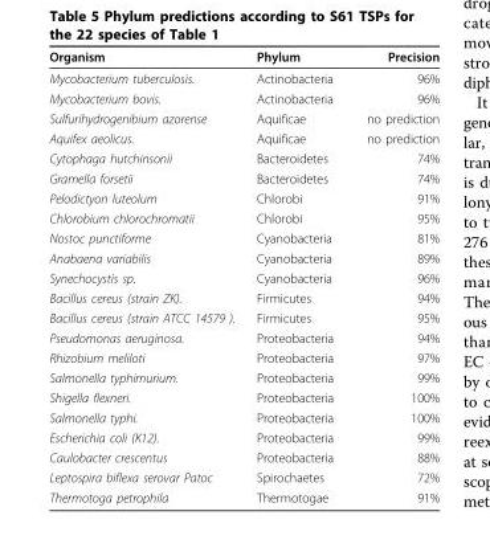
<table><thead><tr><td>Organism</td><td>Phylum</td><td>Precision</td></tr></thead><tbody><tr><td>Mycobacterium tuberculosis.</td><td>Actinobacteria</td><td>96%</td></tr><tr><td>Mycobacterium bovis.</td><td>Actinobacteria</td><td>96%</td></tr><tr><td>Sulfurihydrogenibium azorense</td><td>Aquificae</td><td>no prediction</td></tr><tr><td>Aquifex aeolicus.</td><td>Aquificae</td><td>no prediction</td></tr><tr><td>Cytophaga hutchinsonii</td><td>Bacteroidetes</td><td>74%</td></tr><tr><td>Gramella forsetii</td><td>Bacteroidetes</td><td>74%</td></tr><tr><td>Pelodictyon luteolum</td><td>Chlorobi</td><td>91%</td></tr><tr><td>Chlorobium chlorochromatii</td><td>Chlorobi</td><td>95%</td></tr><tr><td>Nostoc punctiforme</td><td>Cyanobacteria</td><td>81%</td></tr><tr><td>Anabaena variabilis</td><td>Cyanobacteria</td><td>89%</td></tr><tr><td>Synechocystis sp.</td><td>Cyanobacteria</td><td>96%</td></tr><tr><td>Bacillus cereus (strain ZK).</td><td>Firmicutes</td><td>94%</td></tr><tr><td>Bacillus cereus (strain ATCC 14579 ).</td><td>Firmicutes</td><td>95%</td></tr><tr><td>Pseudomonas aeruginosa.</td><td>Proteobacteria</td><td>94%</td></tr><tr><td>Rhizobium meliloti</td><td>Proteobacteria</td><td>97%</td></tr><tr><td>Salmonella typhimurium.</td><td>Proteobacteria</td><td>99%</td></tr><tr><td>Shigella flexneri.</td><td>Proteobacteria</td><td>100%</td></tr><tr><td>Salmonella typhi.</td><td>Proteobacteria</td><td>100%</td></tr><tr><td>Escherichia coli (K12).</td><td>Proteobacteria</td><td>99%</td></tr><tr><td>Caulobacter crescentus</td><td>Proteobacteria</td><td>88%</td></tr><tr><td>Leptospira biflexa serovar Patoc</td><td>Spirochaetes</td><td>72%</td></tr><tr><td>Thermotoga petrophila</td><td>Thermotogae</td><td>91%</td></tr></tbody></table>